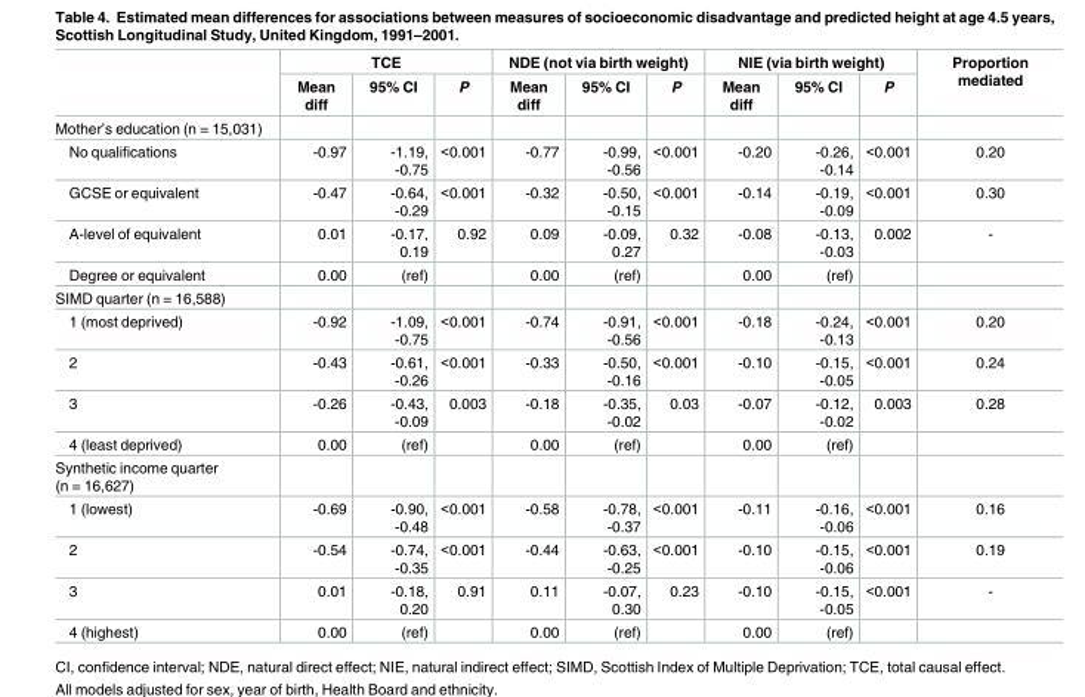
<table><thead><tr><td rowspan="2"></td><td colspan="3">TCE</td><td colspan="3">NDE (not via birth weight)</td><td colspan="3">NIE (via birth weight)</td><td rowspan="2">Proportion mediated</td></tr><tr><td>Mean diff</td><td>95% CI</td><td>P</td><td>Mean diff</td><td>95% CI</td><td>P</td><td>Mean diff</td><td>95% CI</td><td>P</td></tr></thead><tbody><tr><td colspan="11">Mother’s education (n = 15,031)</td></tr><tr><td>No qualifications</td><td>-0.97</td><td>-1.19, -0.75</td><td>&lt;0.001</td><td>-0.77</td><td>-0.99, -0.56</td><td>&lt;0.001</td><td>-0.20</td><td>-0.26, -0.14</td><td>&lt;0.001</td><td>0.20</td></tr><tr><td>GCSE or equivalent</td><td>-0.47</td><td>-0.64, -0.29</td><td>&lt;0.001</td><td>-0.32</td><td>-0.50, -0.15</td><td>&lt;0.001</td><td>-0.14</td><td>-0.19, -0.09</td><td>&lt;0.001</td><td>0.30</td></tr><tr><td>A-level of equivalent</td><td>0.01</td><td>-0.17, 0.19</td><td>0.92</td><td>0.09</td><td>-0.09, 0.27</td><td>0.32</td><td>-0.08</td><td>-0.13, -0.03</td><td>0.002</td><td>-</td></tr><tr><td>Degree or equivalent</td><td>0.00</td><td>(ref)</td><td></td><td>0.00</td><td>(ref)</td><td></td><td>0.00</td><td>(ref)</td><td></td><td></td></tr><tr><td colspan="11">SIMD quarter (n = 16,588)</td></tr><tr><td>1 (most deprived)</td><td>-0.92</td><td>-1.09, -0.75</td><td>&lt;0.001</td><td>-0.74</td><td>-0.91, -0.56</td><td>&lt;0.001</td><td>-0.18</td><td>-0.24, -0.13</td><td>&lt;0.001</td><td>0.20</td></tr><tr><td>2</td><td>-0.43</td><td>-0.61, -0.26</td><td>&lt;0.001</td><td>-0.33</td><td>-0.50, -0.16</td><td>&lt;0.001</td><td>-0.10</td><td>-0.15, -0.05</td><td>&lt;0.001</td><td>0.24</td></tr><tr><td>3</td><td>-0.26</td><td>-0.43, -0.09</td><td>0.003</td><td>-0.18</td><td>-0.35, -0.02</td><td>0.03</td><td>-0.07</td><td>-0.12, -0.02</td><td>0.003</td><td>0.28</td></tr><tr><td>4 (least deprived)</td><td>0.00</td><td>(ref)</td><td></td><td>0.00</td><td>(ref)</td><td></td><td>0.00</td><td>(ref)</td><td></td><td></td></tr><tr><td colspan="11">Synthetic income quarter (n = 16,627)</td></tr><tr><td>1 (lowest)</td><td>-0.69</td><td>-0.90, -0.48</td><td>&lt;0.001</td><td>-0.58</td><td>-0.78, -0.37</td><td>&lt;0.001</td><td>-0.11</td><td>-0.16, -0.06</td><td>&lt;0.001</td><td>0.16</td></tr><tr><td>2</td><td>-0.54</td><td>-0.74, -0.35</td><td>&lt;0.001</td><td>-0.44</td><td>-0.63, -0.25</td><td>&lt;0.001</td><td>-0.10</td><td>-0.15, -0.06</td><td>&lt;0.001</td><td>0.19</td></tr><tr><td>3</td><td>0.01</td><td>-0.18, 0.20</td><td>0.91</td><td>0.11</td><td>-0.07, 0.30</td><td>0.23</td><td>-0.10</td><td>-0.15, -0.05</td><td>&lt;0.001</td><td>-</td></tr><tr><td>4 (highest)</td><td>0.00</td><td>(ref)</td><td></td><td>0.00</td><td>(ref)</td><td></td><td>0.00</td><td>(ref)</td><td></td><td></td></tr></tbody></table>